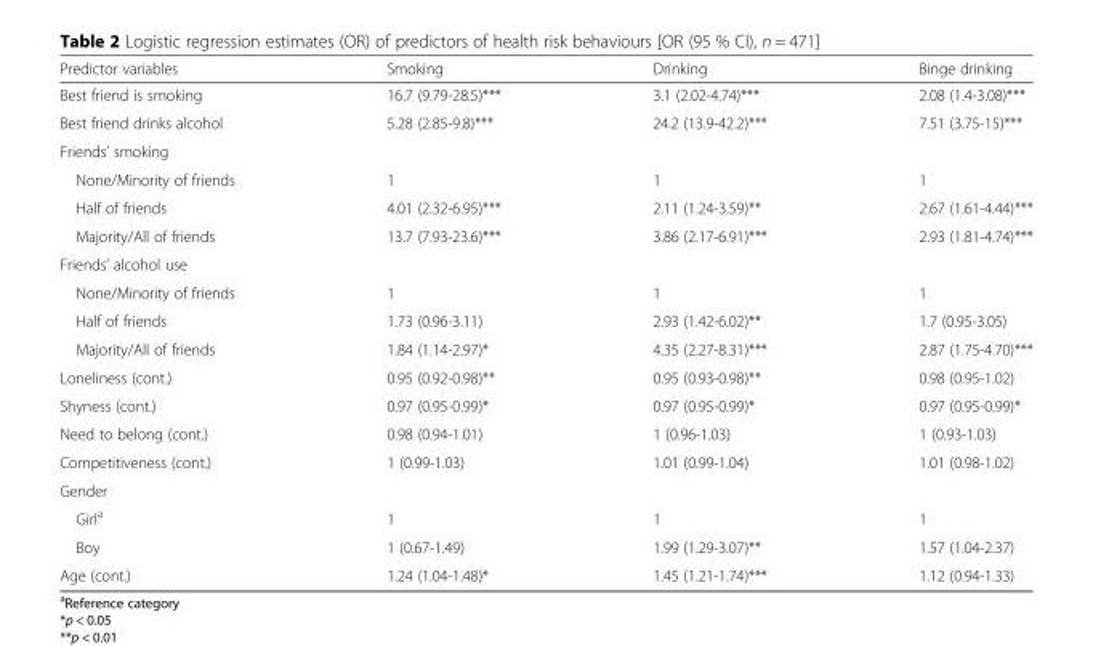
<table><thead><tr><td>Predictor variables</td><td>Smoking</td><td>Drinking</td><td>Binge drinking</td></tr></thead><tbody><tr><td>Best friend is smoking</td><td>16.7 (9.79-28.5)***</td><td>3.1 (2.02-4.74)***</td><td>2.08 (1.4-3.08)***</td></tr><tr><td>Best friend drinks alcohol</td><td>5.28 (2.85-9.8)***</td><td>24.2 (13.9-42.2)***</td><td>7.51 (3.75-15)***</td></tr><tr><td colspan="4">Friends’ smoking</td></tr><tr><td>None/Minority of friends</td><td>1</td><td>1</td><td>1</td></tr><tr><td>Half of friends</td><td>4.01 (2.32-6.95)***</td><td>2.11 (1.24-3.59)**</td><td>2.67 (1.61-4.44)***</td></tr><tr><td>Majority/All of friends</td><td>13.7 (7.93-23.6)***</td><td>3.86 (2.17-6.91)***</td><td>2.93 (1.81-4.74)***</td></tr><tr><td colspan="4">Friends’ alcohol use</td></tr><tr><td>None/Minority of friends</td><td>1</td><td>1</td><td>1</td></tr><tr><td>Half of friends</td><td>1.73 (0.96-3.11)</td><td>2.93 (1.42-6.02)**</td><td>1.7 (0.95-3.05)</td></tr><tr><td>Majority/All of friends</td><td>1.84 (1.14-2.97)*</td><td>4.35 (2.27-8.31)***</td><td>2.87 (1.75-4.70)***</td></tr><tr><td>Loneliness (cont.)</td><td>0.95 (0.92-0.98)**</td><td>0.95 (0.93-0.98)**</td><td>0.98 (0.95-1.02)</td></tr><tr><td>Shyness (cont.)</td><td>0.97 (0.95-0.99)*</td><td>0.97 (0.95-0.99)*</td><td>0.97 (0.95-0.99)*</td></tr><tr><td>Need to belong (cont.)</td><td>0.98 (0.94-1.01)</td><td>1 (0.96-1.03)</td><td>1 (0.93-1.03)</td></tr><tr><td>Competitiveness (cont.)</td><td>1 (0.99-1.03)</td><td>1.01 (0.99-1.04)</td><td>1.01 (0.98-1.02)</td></tr><tr><td colspan="4">Gender</td></tr><tr><td>Girl<sup>a</sup></td><td>1</td><td>1</td><td>1</td></tr><tr><td>Boy</td><td>1 (0.67-1.49)</td><td>1.99 (1.29-3.07)**</td><td>1.57 (1.04-2.37)</td></tr><tr><td>Age (cont.)</td><td>1.24 (1.04-1.48)*</td><td>1.45 (1.21-1.74)***</td><td>1.12 (0.94-1.33)</td></tr></tbody></table>